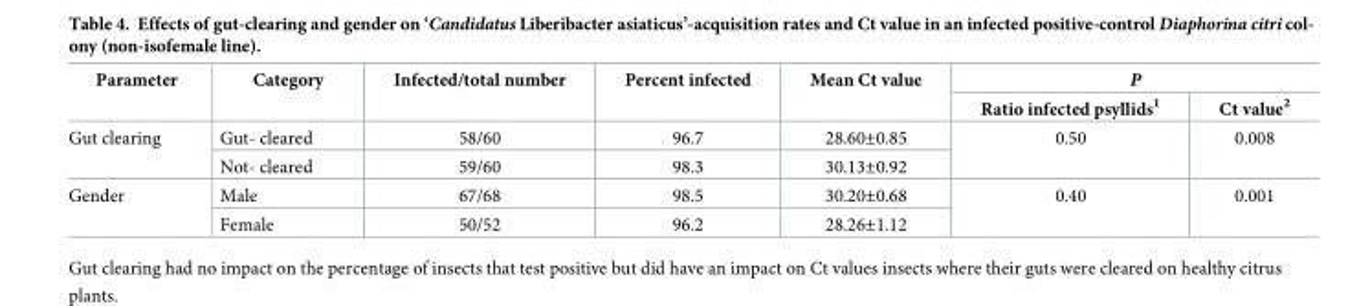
<table><thead><tr><td rowspan="2">Parameter</td><td rowspan="2">Category</td><td rowspan="2">Infected/total number</td><td rowspan="2">Percent infected</td><td rowspan="2">Mean Ct value</td><td colspan="2">P</td></tr><tr><td>Ratio infected psyllids<sup>1</sup></td><td>Ct value<sup>2</sup></td></tr></thead><tbody><tr><td rowspan="2">Gut clearing</td><td>Gut- cleared</td><td>58/60</td><td>96.7</td><td>28.60±0.85</td><td rowspan="2">0.50</td><td rowspan="2">0.008</td></tr><tr><td>Not- cleared</td><td>59/60</td><td>98.3</td><td>30.13±0.92</td></tr><tr><td rowspan="2">Gender</td><td>Male</td><td>67/68</td><td>98.5</td><td>30.20±0.68</td><td rowspan="2">0.40</td><td rowspan="2">0.001</td></tr><tr><td>Female</td><td>50/52</td><td>96.2</td><td>28.26±1.12</td></tr></tbody></table>